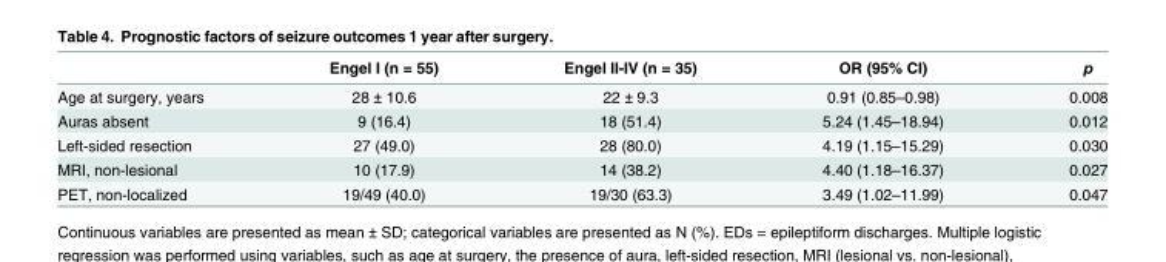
<table><thead><tr><td></td><td>Engel I (n = 55)</td><td>Engel II-IV (n = 35)</td><td>OR (95% CI)</td><td>p</td></tr></thead><tbody><tr><td>Age at surgery, years</td><td>28 ± 10.6</td><td>22 ± 9.3</td><td>0.91 (0.85–0.98)</td><td>0.008</td></tr><tr><td>Auras absent</td><td>9 (16.4)</td><td>18 (51.4)</td><td>5.24 (1.45–18.94)</td><td>0.012</td></tr><tr><td>Left-sided resection</td><td>27 (49.0)</td><td>28 (80.0)</td><td>4.19 (1.15–15.29)</td><td>0.030</td></tr><tr><td>MRI, non-lesional</td><td>10 (17.9)</td><td>14 (38.2)</td><td>4.40 (1.18–16.37)</td><td>0.027</td></tr><tr><td>PET, non-localized</td><td>19/49 (40.0)</td><td>19/30 (63.3)</td><td>3.49 (1.02–11.99)</td><td>0.047</td></tr></tbody></table>